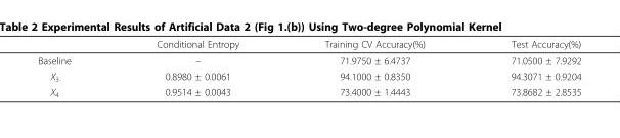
<table><thead><tr><td></td><td>Conditional Entropy</td><td>Training CV Accuracy(%)</td><td>Test Accuracy(%)</td></tr></thead><tbody><tr><td>Baseline</td><td>–</td><td>71.9750 ± 6.4737</td><td>71.0500 ± 7.9292</td></tr><tr><td>X<sub>3</sub></td><td>0.8980 ± 0.0061</td><td>94.1000 ± 0.8350</td><td>94.3071 ± 0.9204</td></tr><tr><td>X<sub>4</sub></td><td>0.9514 ± 0.0043</td><td>73.4000 ± 1.4443</td><td>73.8682 ± 2.8535</td></tr></tbody></table>